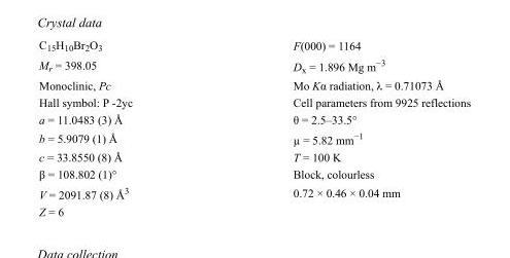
<table><tbody><tr><td>C<sub>15</sub>H<sub>10</sub>Br<sub>2</sub>O<sub>3</sub></td><td>F(000) = 1164</td></tr><tr><td>M<sub>r</sub> = 398.05</td><td>D<sub>x</sub> = 1.896 Mg m<sup>−3</sup></td></tr><tr><td>Monoclinic, Pc</td><td>Mo Kα radiation, λ = 0.71073 Å</td></tr><tr><td>Hall symbol: P -2yc</td><td>Cell parameters from 9925 reflections</td></tr><tr><td>a = 11.0483 (3) Å</td><td>θ = 2.5–33.5°</td></tr><tr><td>b = 5.9079 (1) Å</td><td>µ = 5.82 mm<sup>−1</sup></td></tr><tr><td>c = 33.8550 (8) Å</td><td>T = 100 K</td></tr><tr><td>β = 108.802 (1)°</td><td>Block, colourless</td></tr><tr><td>V = 2091.87 (8) Å<sup>3</sup></td><td>0.72 × 0.46 × 0.04 mm</td></tr><tr><td>Z = 6</td><td></td></tr></tbody></table>